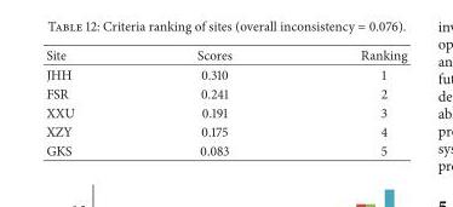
<table><thead><tr><td>Site</td><td>Scores</td><td>Ranking</td></tr></thead><tbody><tr><td>JHH</td><td>0.310</td><td>1</td></tr><tr><td>FSR</td><td>0.241</td><td>2</td></tr><tr><td>XXU</td><td>0.191</td><td>3</td></tr><tr><td>XZY</td><td>0.175</td><td>4</td></tr><tr><td>GKS</td><td>0.083</td><td>5</td></tr></tbody></table>